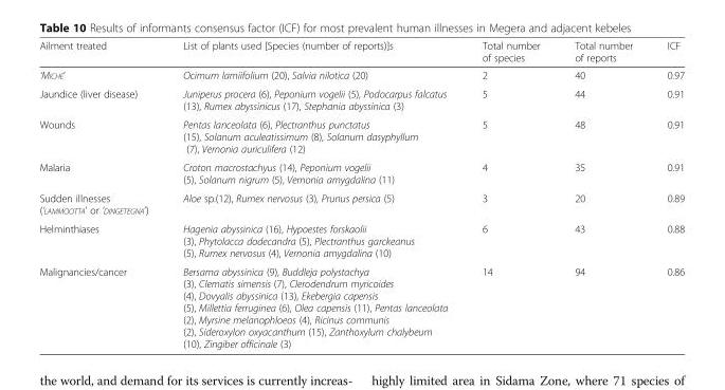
<table><thead><tr><td>Ailment treated</td><td>List of plants used [Species (number of reports)]s</td><td>Total number of species</td><td>Total number of reports</td><td>ICF</td></tr></thead><tbody><tr><td>‘MICHE’</td><td>Ocimum lamiifolium (20), Salvia nilotica (20)</td><td>2</td><td>40</td><td>0.97</td></tr><tr><td>Jaundice (liver disease)</td><td>Juniperus procera (6), Peponium vogelii (5), Podocarpus falcatus (13), Rumex abyssinicus (17), Stephania abyssinica (3)</td><td>5</td><td>44</td><td>0.91</td></tr><tr><td>Wounds</td><td>Pentas lanceolata (6), Plectranthus punctatus (15), Solanum aculeatissimum (8), Solanum dasyphyllum (7), Vernonia auriculifera (12)</td><td>5</td><td>48</td><td>0.91</td></tr><tr><td>Malaria</td><td>Croton macrostachyus (14), Peponium vogelii (5), Solanum nigrum (5), Vernonia amygdalina (11)</td><td>4</td><td>35</td><td>0.91</td></tr><tr><td>Sudden illnesses (‘LAMMOOTTA’ or ‘DINGETEGNA’)</td><td>Aloe sp.(12), Rumex nervosus (3), Prunus persica (5)</td><td>3</td><td>20</td><td>0.89</td></tr><tr><td>Helminthiases</td><td>Hagenia abyssinica (16), Hypoestes forskaolii (3), Phytolacca dodecandra (5), Plectranthus garckeanus (5), Rumex nervosus (4), Vernonia amygdalina (10)</td><td>6</td><td>43</td><td>0.88</td></tr><tr><td>Malignancies/cancer</td><td>Bersama abyssinica (9), Buddleja polystachya (3), Clematis simensis (7), Clerodendrum myricoides (4), Dovyalis abyssinica (13), Ekebergia capensis (5), Millettia ferruginea (6), Olea capensis (11), Pentas lanceolata (2), Myrsine melanophloeos (4), Ricinus communis (2), Sideroxylon oxyacanthum (15), Zanthoxylum chalybeum (10), Zingiber officinale (3)</td><td>14</td><td>94</td><td>0.86</td></tr></tbody></table>